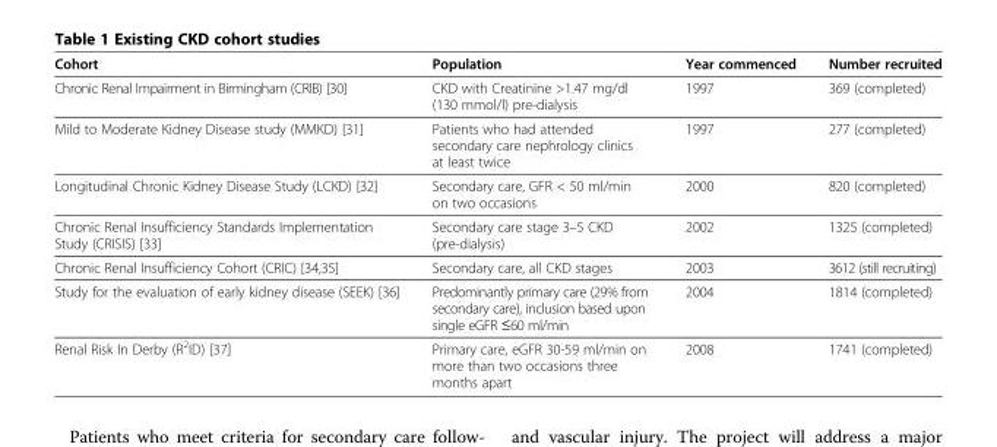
<table><thead><tr><td>Cohort</td><td>Population</td><td>Year commenced</td><td>Number recruited</td></tr></thead><tbody><tr><td>Chronic Renal Impairment in Birmingham (CRIB) [30]</td><td>CKD with Creatinine &gt;1.47 mg/dl (130 mmol/l) pre-dialysis</td><td>1997</td><td>369 (completed)</td></tr><tr><td>Mild to Moderate Kidney Disease study (MMKD) [31]</td><td>Patients who had attended secondary care nephrology clinics at least twice</td><td>1997</td><td>277 (completed)</td></tr><tr><td>Longitudinal Chronic Kidney Disease Study (LCKD) [32]</td><td>Secondary care, GFR &lt; 50 ml/min on two occasions</td><td>2000</td><td>820 (completed)</td></tr><tr><td>Chronic Renal Insufficiency Standards Implementation Study (CRISIS) [33]</td><td>Secondary care stage 3–5 CKD (pre-dialysis)</td><td>2002</td><td>1325 (completed)</td></tr><tr><td>Chronic Renal Insufficiency Cohort (CRIC) [34,35]</td><td>Secondary care, all CKD stages</td><td>2003</td><td>3612 (still recruiting)</td></tr><tr><td>Study for the evaluation of early kidney disease (SEEK) [36]</td><td>Predominantly primary care (29% from secondary care), inclusion based upon single eGFR ≤60 ml/min</td><td>2004</td><td>1814 (completed)</td></tr><tr><td>Renal Risk In Derby (R<sup>2</sup>ID) [37]</td><td>Primary care, eGFR 30-59 ml/min on more than two occasions three months apart</td><td>2008</td><td>1741 (completed)</td></tr></tbody></table>